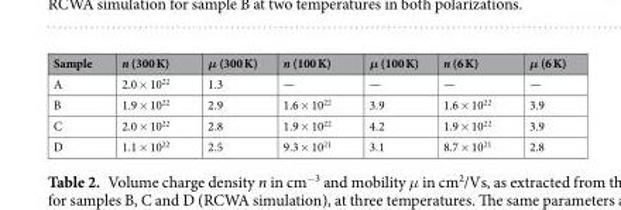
<table><thead><tr><td>Sample</td><td>n (300 K)</td><td>μ (300 K)</td><td>n (100 K)</td><td>μ (100 K)</td><td>n (6 K)</td><td>μ (6 K)</td></tr></thead><tbody><tr><td>A</td><td>2.0 × 10<sup>22</sup></td><td>1.3</td><td>—</td><td>—</td><td>—</td><td>—</td></tr><tr><td>B</td><td>1.9 × 10<sup>22</sup></td><td>2.9</td><td>1.6 × 10<sup>22</sup></td><td>3.9</td><td>1.6 × 10<sup>22</sup></td><td>3.9</td></tr><tr><td>C</td><td>2.0 × 10<sup>22</sup></td><td>2.8</td><td>1.9 × 10<sup>22</sup></td><td>4.2</td><td>1.9 × 10<sup>22</sup></td><td>3.9</td></tr><tr><td>D</td><td>1.1 × 10<sup>22</sup></td><td>2.5</td><td>9.3 × 10<sup>21</sup></td><td>3.1</td><td>8.7 × 10<sup>21</sup></td><td>2.8</td></tr></tbody></table>